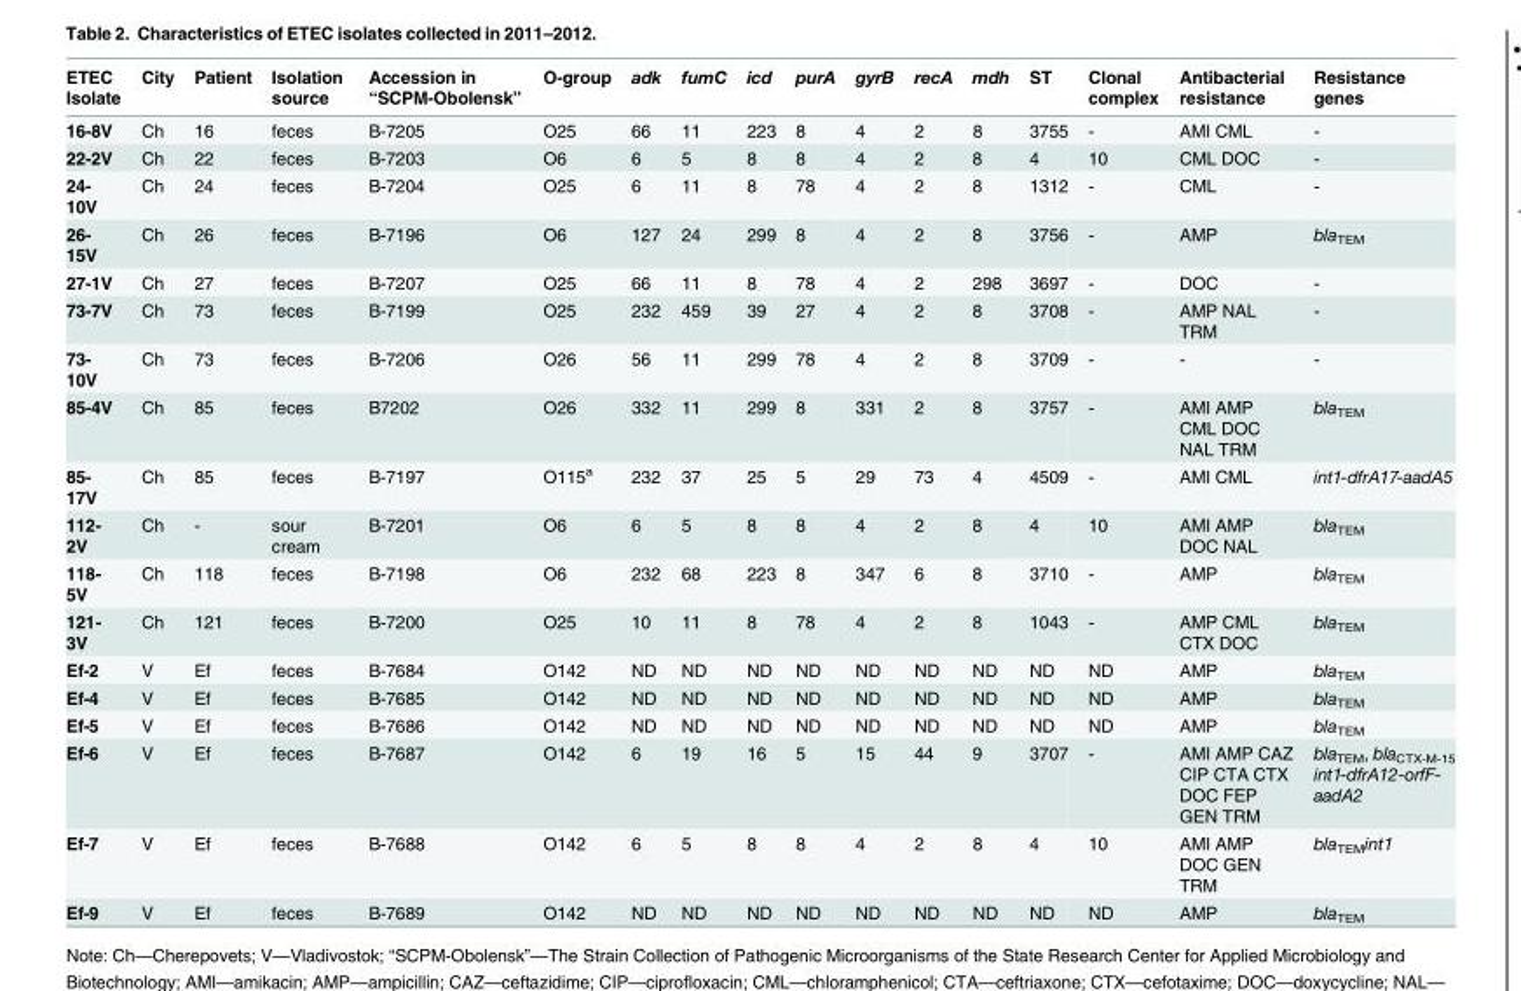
<table><thead><tr><td>ETEC Isolate</td><td>City</td><td>Patient</td><td>Isolation source</td><td>Accession in “SCPM-Obolensk”</td><td>O-group</td><td>adk</td><td>fumC</td><td>icd</td><td>purA</td><td>gyrB</td><td>recA</td><td>mdh</td><td>ST</td><td>Clonal complex</td><td>Antibacterial resistance</td><td>Resistance genes</td></tr></thead><tbody><tr><td>16-8V</td><td>Ch</td><td>16</td><td>feces</td><td>B-7205</td><td>O25</td><td>66</td><td>11</td><td>223</td><td>8</td><td>4</td><td>2</td><td>8</td><td>3755</td><td>-</td><td>AMI CML</td><td>-</td></tr><tr><td>22-2V</td><td>Ch</td><td>22</td><td>feces</td><td>B-7203</td><td>O6</td><td>6</td><td>5</td><td>8</td><td>8</td><td>4</td><td>2</td><td>8</td><td>4</td><td>10</td><td>CML DOC</td><td>-</td></tr><tr><td>24- 10V</td><td>Ch</td><td>24</td><td>feces</td><td>B-7204</td><td>O25</td><td>6</td><td>11</td><td>8</td><td>78</td><td>4</td><td>2</td><td>8</td><td>1312</td><td>-</td><td>CML</td><td>-</td></tr><tr><td>26- 15V</td><td>Ch</td><td>26</td><td>feces</td><td>B-7196</td><td>O6</td><td>127</td><td>24</td><td>299</td><td>8</td><td>4</td><td>2</td><td>8</td><td>3756</td><td>-</td><td>AMP</td><td>bla<sub>TEM</sub></td></tr><tr><td>27-1V</td><td>Ch</td><td>27</td><td>feces</td><td>B-7207</td><td>O25</td><td>66</td><td>11</td><td>8</td><td>78</td><td>4</td><td>2</td><td>298</td><td>3697</td><td>-</td><td>DOC</td><td>-</td></tr><tr><td>73-7V</td><td>Ch</td><td>73</td><td>feces</td><td>B-7199</td><td>O25</td><td>232</td><td>459</td><td>39</td><td>27</td><td>4</td><td>2</td><td>8</td><td>3708</td><td>-</td><td>AMP NAL TRM</td><td>-</td></tr><tr><td>73- 10V</td><td>Ch</td><td>73</td><td>feces</td><td>B-7206</td><td>O26</td><td>56</td><td>11</td><td>299</td><td>78</td><td>4</td><td>2</td><td>8</td><td>3709</td><td>-</td><td>-</td><td>-</td></tr><tr><td>85-4V</td><td>Ch</td><td>85</td><td>feces</td><td>B7202</td><td>O26</td><td>332</td><td>11</td><td>299</td><td>8</td><td>331</td><td>2</td><td>8</td><td>3757</td><td>-</td><td>AMI AMP CML DOC NAL TRM</td><td>bla<sub>TEM</sub></td></tr><tr><td>85- 17V</td><td>Ch</td><td>85</td><td>feces</td><td>B-7197</td><td>O115<sup>a</sup></td><td>232</td><td>37</td><td>25</td><td>5</td><td>29</td><td>73</td><td>4</td><td>4509</td><td>-</td><td>AMI CML</td><td>int1-dfrA17-aadA5</td></tr><tr><td>112- 2V</td><td>Ch</td><td>-</td><td>sour cream</td><td>B-7201</td><td>O6</td><td>6</td><td>5</td><td>8</td><td>8</td><td>4</td><td>2</td><td>8</td><td>4</td><td>10</td><td>AMI AMP DOC NAL</td><td>bla<sub>TEM</sub></td></tr><tr><td>118- 5V</td><td>Ch</td><td>118</td><td>feces</td><td>B-7198</td><td>O6</td><td>232</td><td>68</td><td>223</td><td>8</td><td>347</td><td>6</td><td>8</td><td>3710</td><td>-</td><td>AMP</td><td>bla<sub>TEM</sub></td></tr><tr><td>121- 3V</td><td>Ch</td><td>121</td><td>feces</td><td>B-7200</td><td>O25</td><td>10</td><td>11</td><td>8</td><td>78</td><td>4</td><td>2</td><td>8</td><td>1043</td><td>-</td><td>AMP CML CTX DOC</td><td>bla<sub>TEM</sub></td></tr><tr><td>Ef-2</td><td>V</td><td>Ef</td><td>feces</td><td>B-7684</td><td>O142</td><td>ND</td><td>ND</td><td>ND</td><td>ND</td><td>ND</td><td>ND</td><td>ND</td><td>ND</td><td>ND</td><td>AMP</td><td>bla<sub>TEM</sub></td></tr><tr><td>Ef-4</td><td>V</td><td>Ef</td><td>feces</td><td>B-7685</td><td>O142</td><td>ND</td><td>ND</td><td>ND</td><td>ND</td><td>ND</td><td>ND</td><td>ND</td><td>ND</td><td>ND</td><td>AMP</td><td>bla<sub>TEM</sub></td></tr><tr><td>Ef-5</td><td>V</td><td>Ef</td><td>feces</td><td>B-7686</td><td>O142</td><td>ND</td><td>ND</td><td>ND</td><td>ND</td><td>ND</td><td>ND</td><td>ND</td><td>ND</td><td>ND</td><td>AMP</td><td>bla<sub>TEM</sub></td></tr><tr><td>Ef-6</td><td>V</td><td>Ef</td><td>feces</td><td>B-7687</td><td>O142</td><td>6</td><td>19</td><td>16</td><td>5</td><td>15</td><td>44</td><td>9</td><td>3707</td><td>-</td><td>AMI AMP CAZ CIP CTA CTX DOC FEP GEN TRM</td><td>bla<sub>TEM</sub>, bla<sub>CTX-M-15</sub> int1-dfrA12-orfF- aadA2</td></tr><tr><td>Ef-7</td><td>V</td><td>Ef</td><td>feces</td><td>B-7688</td><td>O142</td><td>6</td><td>5</td><td>8</td><td>8</td><td>4</td><td>2</td><td>8</td><td>4</td><td>10</td><td>AMI AMP DOC GEN TRM</td><td>bla<sub>TEM</sub>int1</td></tr><tr><td>Ef-9</td><td>V</td><td>Ef</td><td>feces</td><td>B-7689</td><td>O142</td><td>ND</td><td>ND</td><td>ND</td><td>ND</td><td>ND</td><td>ND</td><td>ND</td><td>ND</td><td>ND</td><td>AMP</td><td>bla<sub>TEM</sub></td></tr></tbody></table>